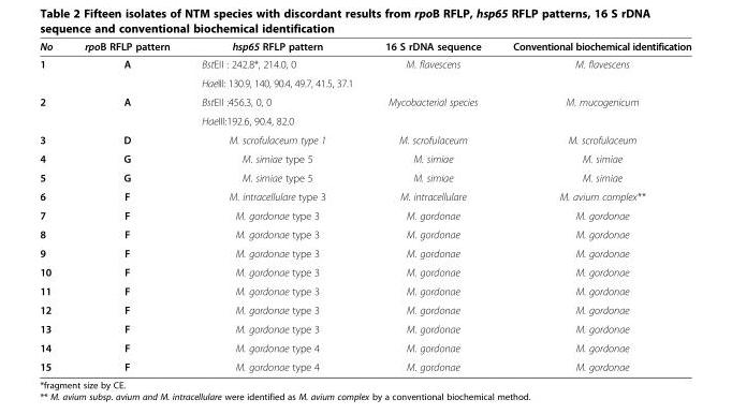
<table><tbody><tr><td>No</td><td>rpoB RFLP pattern</td><td>hsp65 RFLP pattern</td><td>16 S rDNA sequence</td><td>Conventional biochemical identification</td></tr><tr><td rowspan="2">1</td><td>A</td><td>BstEII : 242.8*, 214.0, 0</td><td>M. flavescens</td><td>M. flavescens</td></tr><tr><td></td><td>HaeIII: 130.9, 140, 90.4, 49.7, 41.5, 37.1</td><td></td><td></td></tr><tr><td rowspan="2">2</td><td>A</td><td>BstEII :456.3, 0, 0</td><td>Mycobacterial species</td><td>M. mucogenicum</td></tr><tr><td></td><td>HaeIII:192.6, 90.4, 82.0</td><td></td><td></td></tr><tr><td>3</td><td>D</td><td>M. scrofulaceum type 1</td><td>M. scrofulaceum</td><td>M. scrofulaceum</td></tr><tr><td>4</td><td>G</td><td>M. simiae type 5</td><td>M. simiae</td><td>M. simiae</td></tr><tr><td>5</td><td>G</td><td>M. simiae type 5</td><td>M. simiae</td><td>M. simiae</td></tr><tr><td>6</td><td>F</td><td>M. intracellulare type 3</td><td>M. intracellulare</td><td>M. avium complex**</td></tr><tr><td>7</td><td>F</td><td>M. gordonae type 3</td><td>M. gordonae</td><td>M. gordonae</td></tr><tr><td>8</td><td>F</td><td>M. gordonae type 3</td><td>M. gordonae</td><td>M. gordonae</td></tr><tr><td>9</td><td>F</td><td>M. gordonae type 3</td><td>M. gordonae</td><td>M. gordonae</td></tr><tr><td>10</td><td>F</td><td>M. gordonae type 3</td><td>M. gordonae</td><td>M. gordonae</td></tr><tr><td>11</td><td>F</td><td>M. gordonae type 3</td><td>M. gordonae</td><td>M. gordonae</td></tr><tr><td>12</td><td>F</td><td>M. gordonae type 3</td><td>M. gordonae</td><td>M. gordonae</td></tr><tr><td>13</td><td>F</td><td>M. gordonae type 3</td><td>M. gordonae</td><td>M. gordonae</td></tr><tr><td>14</td><td>F</td><td>M. gordonae type 4</td><td>M. gordonae</td><td>M. gordonae</td></tr><tr><td>15</td><td>F</td><td>M. gordonae type 4</td><td>M. gordonae</td><td>M. gordonae</td></tr></tbody></table>